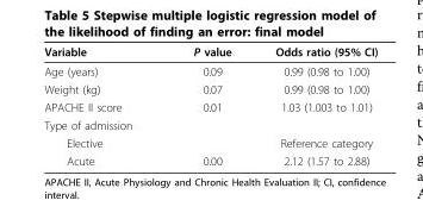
<table><thead><tr><td>Variable</td><td>P value</td><td>Odds ratio (95% CI)</td></tr></thead><tbody><tr><td>Age (years)</td><td>0.09</td><td>0.99 (0.98 to 1.00)</td></tr><tr><td>Weight (kg)</td><td>0.07</td><td>0.99 (0.98 to 1.00)</td></tr><tr><td>APACHE II score</td><td>0.01</td><td>1.03 (1.003 to 1.01)</td></tr><tr><td colspan="3">Type of admission</td></tr><tr><td>Elective</td><td></td><td>Reference category</td></tr><tr><td>Acute</td><td>0.00</td><td>2.12 (1.57 to 2.88)</td></tr></tbody></table>